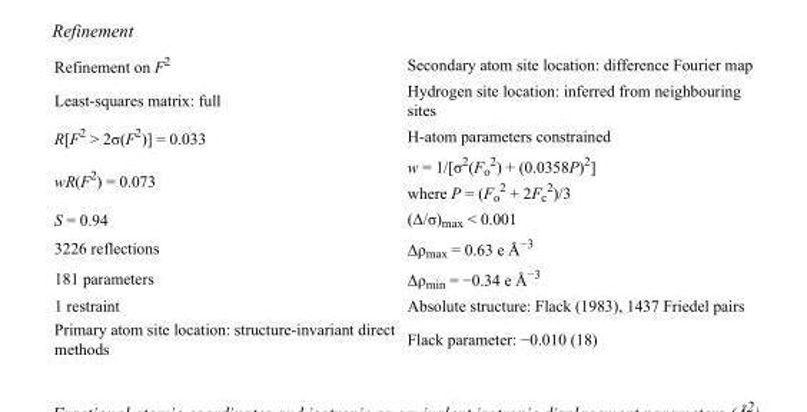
<table><tbody><tr><td>Refinement on F<sup>2</sup></td><td>Secondary atom site location: difference Fourier map</td></tr><tr><td>Least-squares matrix: full</td><td>Hydrogen site location: inferred from neighbouring sites</td></tr><tr><td>R[F<sup>2</sup> &gt; 2σ(F<sup>2</sup>)] = 0.033</td><td>H-atom parameters constrained</td></tr><tr><td>wR(F<sup>2</sup>) = 0.073</td><td>w = 1/[σ<sup>2</sup>(F<sub>o</sub> <sup>2</sup>) + (0.0358P)<sup>2</sup>] where P = (F<sub>o</sub> <sup>2</sup> + 2F<sub>c</sub> <sup>2</sup>)/3</td></tr><tr><td>S = 0.94</td><td>(Δ/σ)<sub>max</sub> &lt; 0.001</td></tr><tr><td>3226 reflections</td><td>Δρ<sub>max</sub> = 0.63 e Å<sup>−3</sup></td></tr><tr><td>181 parameters</td><td>Δρ<sub>min</sub> = −0.34 e Å<sup>−3</sup></td></tr><tr><td>1 restraint</td><td>Absolute structure: Flack (1983), 1437 Friedel pairs</td></tr><tr><td>Primary atom site location: structure-invariant direct methods</td><td>Flack parameter: −0.010 (18)</td></tr></tbody></table>